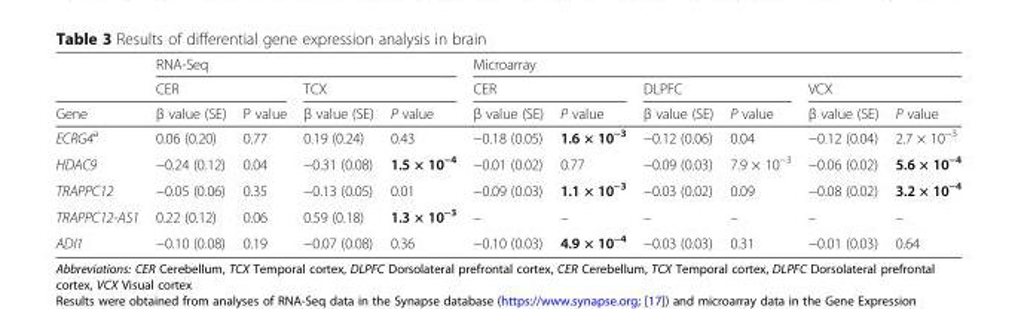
<table><thead><tr><td rowspan="3">Gene</td><td colspan="4">RNA-Seq</td><td colspan="6">Microarray</td></tr><tr><td colspan="2">CER</td><td colspan="2">TCX</td><td colspan="2">CER</td><td colspan="2">DLPFC</td><td colspan="2">VCX</td></tr><tr><td>β value (SE)</td><td>P value</td><td>β value (SE)</td><td>P value</td><td>β value (SE)</td><td>P value</td><td>β value (SE)</td><td>P value</td><td>β value (SE)</td><td>P value</td></tr></thead><tbody><tr><td>ECRG4<sup>a</sup></td><td>0.06 (0.20)</td><td>0.77</td><td>0.19 (0.24)</td><td>0.43</td><td>−0.18 (0.05)</td><td>1.6 × 10<sup>−3</sup></td><td>−0.12 (0.06)</td><td>0.04</td><td>−0.12 (0.04)</td><td>2.7 × 10<sup>−3</sup></td></tr><tr><td>HDAC9</td><td>−0.24 (0.12)</td><td>0.04</td><td>−0.31 (0.08)</td><td>1.5 × 10<sup>−4</sup></td><td>−0.01 (0.02)</td><td>0.77</td><td>−0.09 (0.03)</td><td>7.9 × 10<sup>−3</sup></td><td>−0.06 (0.02)</td><td>5.6 × 10<sup>−4</sup></td></tr><tr><td>TRAPPC12</td><td>−0.05 (0.06)</td><td>0.35</td><td>−0.13 (0.05)</td><td>0.01</td><td>−0.09 (0.03)</td><td>1.1 × 10<sup>−3</sup></td><td>−0.03 (0.02)</td><td>0.09</td><td>−0.08 (0.02)</td><td>3.2 × 10<sup>−4</sup></td></tr><tr><td>TRAPPC12-AS1</td><td>0.22 (0.12)</td><td>0.06</td><td>0.59 (0.18)</td><td>1.3 × 10<sup>−3</sup></td><td>–</td><td>–</td><td>–</td><td>–</td><td>–</td><td>–</td></tr><tr><td>ADI1</td><td>−0.10 (0.08)</td><td>0.19</td><td>−0.07 (0.08)</td><td>0.36</td><td>−0.10 (0.03)</td><td>4.9 × 10<sup>−4</sup></td><td>−0.03 (0.03)</td><td>0.31</td><td>−0.01 (0.03)</td><td>0.64</td></tr></tbody></table>